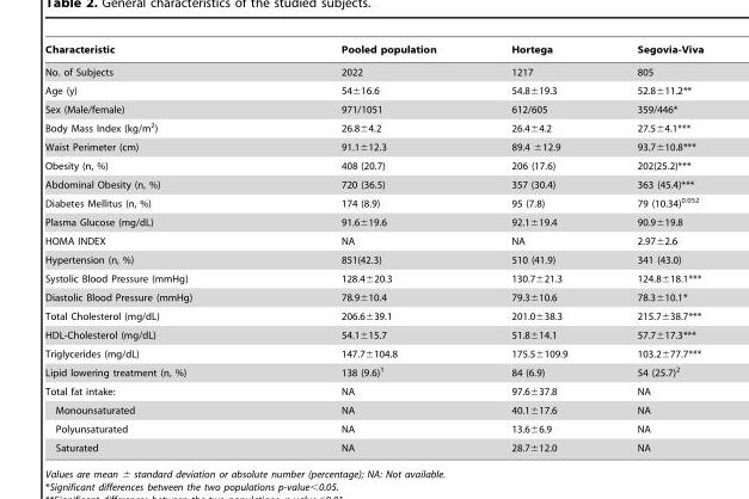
<table><thead><tr><td>Characteristic</td><td>Pooled population</td><td>Hortega</td><td>Segovia-Viva</td></tr></thead><tbody><tr><td>No. of Subjects</td><td>2022</td><td>1217</td><td>805</td></tr><tr><td>Age (y)</td><td>54±16.6</td><td>54.8±19.3</td><td>52.8±11.2**</td></tr><tr><td>Sex (Male/female)</td><td>971/1051</td><td>612/605</td><td>359/446*</td></tr><tr><td>Body Mass Index (kg/m<sup>2</sup>)</td><td>26.8±4.2</td><td>26.4±4.2</td><td>27.5±4.1***</td></tr><tr><td>Waist Perimeter (cm)</td><td>91.1±12.3</td><td>89.4 ±12.9</td><td>93.7±10.8***</td></tr><tr><td>Obesity (n, %)</td><td>408 (20.7)</td><td>206 (17.6)</td><td>202(25.2)***</td></tr><tr><td>Abdominal Obesity (n, %)</td><td>720 (36.5)</td><td>357 (30.4)</td><td>363 (45.4)***</td></tr><tr><td>Diabetes Mellitus (n, %)</td><td>174 (8.9)</td><td>95 (7.8)</td><td>79 (10.34)<sup>0.052</sup></td></tr><tr><td>Plasma Glucose (mg/dL)</td><td>91.6±19.6</td><td>92.1±19.4</td><td>90.9±19.8</td></tr><tr><td>HOMA INDEX</td><td>NA</td><td>NA</td><td>2.97±2.6</td></tr><tr><td>Hypertension (n, %)</td><td>851(42.3)</td><td>510 (41.9)</td><td>341 (43.0)</td></tr><tr><td>Systolic Blood Pressure (mmHg)</td><td>128.4±20.3</td><td>130.7±21.3</td><td>124.8±18.1***</td></tr><tr><td>Diastolic Blood Pressure (mmHg)</td><td>78.9±10.4</td><td>79.3±10.6</td><td>78.3±10.1*</td></tr><tr><td>Total Cholesterol (mg/dL)</td><td>206.6±39.1</td><td>201.0±38.3</td><td>215.7±38.7***</td></tr><tr><td>HDL-Cholesterol (mg/dL)</td><td>54.1±15.7</td><td>51.8±14.1</td><td>57.7±17.3***</td></tr><tr><td>Triglycerides (mg/dL)</td><td>147.7±104.8</td><td>175.5±109.9</td><td>103.2±77.7***</td></tr><tr><td>Lipid lowering treatment (n, %)</td><td>138 (9.6)<sup>1</sup></td><td>84 (6.9)</td><td>54 (25.7)<sup>2</sup></td></tr><tr><td>Total fat intake:</td><td>NA</td><td>97.6±37.8</td><td>NA</td></tr><tr><td>Monounsaturated</td><td>NA</td><td>40.1±17.6</td><td>NA</td></tr><tr><td>Polyunsaturated</td><td>NA</td><td>13.6±6.9</td><td>NA</td></tr><tr><td>Saturated</td><td>NA</td><td>28.7±12.0</td><td>NA</td></tr></tbody></table>